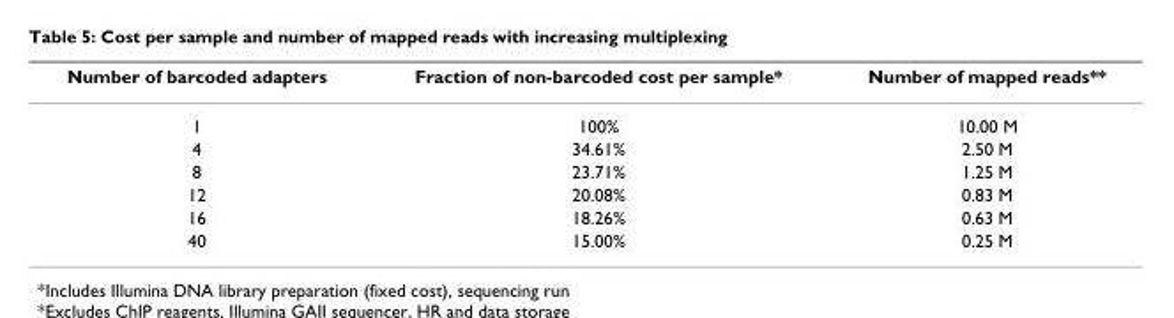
<table><thead><tr><td>Number of barcoded adapters</td><td>Fraction of non-barcoded cost per sample*</td><td>Number of mapped reads**</td></tr></thead><tbody><tr><td>1</td><td>100%</td><td>10.00 M</td></tr><tr><td>4</td><td>34.61%</td><td>2.50 M</td></tr><tr><td>8</td><td>23.71%</td><td>1.25 M</td></tr><tr><td>12</td><td>20.08%</td><td>0.83 M</td></tr><tr><td>16</td><td>18.26%</td><td>0.63 M</td></tr><tr><td>40</td><td>15.00%</td><td>0.25 M</td></tr></tbody></table>